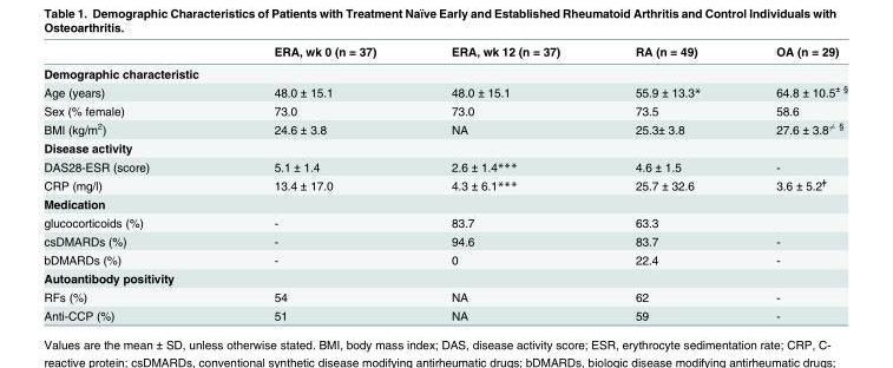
<table><thead><tr><td></td><td>ERA, wk 0 (n = 37)</td><td>ERA, wk 12 (n = 37)</td><td>RA (n = 49)</td><td>OA (n = 29)</td></tr></thead><tbody><tr><td colspan="5">Demographic characteristic</td></tr><tr><td>Age (years)</td><td>48.0 ± 15.1</td><td>48.0 ± 15.1</td><td>55.9 ± 13.3*</td><td>64.8 ± 10.5<sup>± §</sup></td></tr><tr><td>Sex (% female)</td><td>73.0</td><td>73.0</td><td>73.5</td><td>58.6</td></tr><tr><td>BMI (kg/m<sup>2</sup>)</td><td>24.6 ± 3.8</td><td>NA</td><td>25.3± 3.8</td><td>27.6 ± 3.86¼ §</td></tr><tr><td colspan="5">Disease activity</td></tr><tr><td>DAS28-ESR (score)</td><td>5.1 ± 1.4</td><td>2.6 ± 1.4***</td><td>4.6 ± 1.5</td><td>-</td></tr><tr><td>CRP (mg/l)</td><td>13.4 ± 17.0</td><td>4.3 ± 6.1***</td><td>25.7 ± 32.6</td><td>3.6 ± 5.2<sup>ǂ</sup></td></tr><tr><td colspan="5">Medication</td></tr><tr><td>glucocorticoids (%)</td><td>-</td><td>83.7</td><td>63.3</td><td></td></tr><tr><td>csDMARDs (%)</td><td>-</td><td>94.6</td><td>83.7</td><td>-</td></tr><tr><td>bDMARDs (%)</td><td>-</td><td>0</td><td>22.4</td><td>-</td></tr><tr><td colspan="5">Autoantibody positivity</td></tr><tr><td>RFs (%)</td><td>54</td><td>NA</td><td>62</td><td>-</td></tr><tr><td>Anti-CCP (%)</td><td>51</td><td>NA</td><td>59</td><td>-</td></tr></tbody></table>